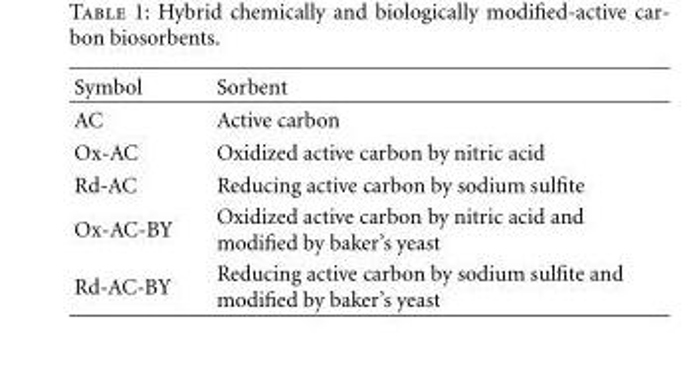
<table><thead><tr><td>Symbol</td><td>Sorbent</td></tr></thead><tbody><tr><td>AC</td><td>Active carbon</td></tr><tr><td>Ox-AC</td><td>Oxidized active carbon by nitric acid</td></tr><tr><td>Rd-AC</td><td>Reducing active carbon by sodium sulfite</td></tr><tr><td>Ox-AC-BY</td><td>Oxidized active carbon by nitric acid and modified by baker’s yeast</td></tr><tr><td>Rd-AC-BY</td><td>Reducing active carbon by sodium sulfite and modified by baker’s yeast</td></tr></tbody></table>